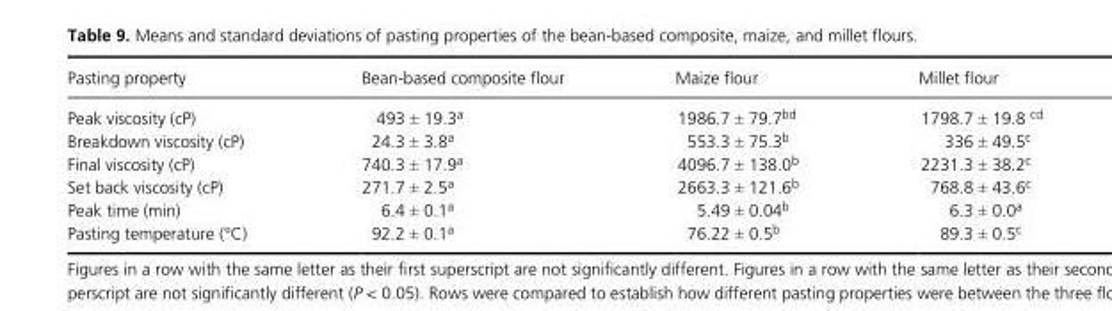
<table><thead><tr><td>Pasting property</td><td>Bean- based composite flour</td><td>Maize flour</td><td>Millet flour</td></tr></thead><tbody><tr><td>Peak viscosity (cP)</td><td>493 ± 19.3<sup>a</sup></td><td>1986.7 ± 79.7<sup>bd</sup></td><td>1798.7 ± 19.8 <sup>cd</sup></td></tr><tr><td>Breakdown viscosity (cP)</td><td>24.3 ± 3.8<sup>a</sup></td><td>553.3 ± 75.3<sup>b</sup></td><td>336 ± 49.5<sup>c</sup></td></tr><tr><td>Final viscosity (cP)</td><td>740.3 ± 17.9<sup>a</sup></td><td>4096.7 ± 138.0<sup>b</sup></td><td>2231.3 ± 38.2<sup>c</sup></td></tr><tr><td>Set back viscosity (cP)</td><td>271.7 ± 2.5<sup>a</sup></td><td>2663.3 ± 121.6<sup>b</sup></td><td>768.8 ± 43.6<sup>c</sup></td></tr><tr><td>Peak time (min)</td><td>6.4 ± 0.1<sup>a</sup></td><td>5.49 ± 0.04<sup>b</sup></td><td>6.3 ± 0.0<sup>a</sup></td></tr><tr><td>Pasting temperature (°C)</td><td>92.2 ± 0.1<sup>a</sup></td><td>76.22 ± 0.5<sup>b</sup></td><td>89.3 ± 0.5<sup>c</sup></td></tr></tbody></table>